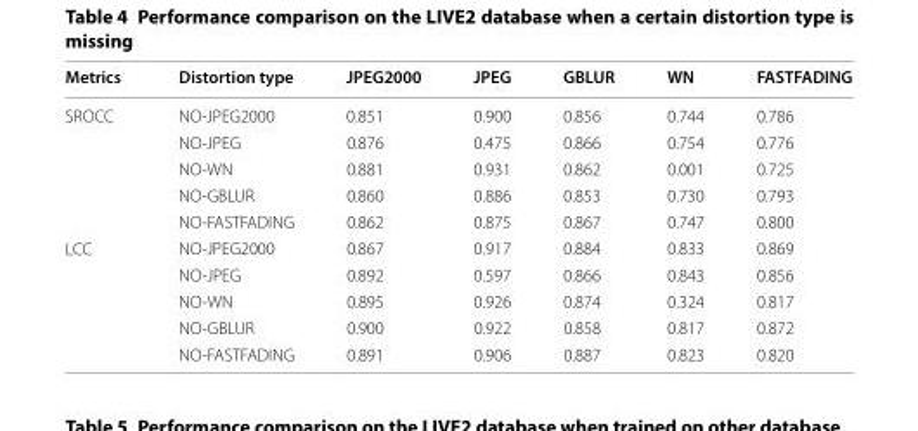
<table><thead><tr><td>Metrics</td><td>Distortion type</td><td>JPEG2000</td><td>JPEG</td><td>GBLUR</td><td>WN</td><td>FASTFADING</td></tr></thead><tbody><tr><td rowspan="5">SROCC</td><td>NO-JPEG2000</td><td>0.851</td><td>0.900</td><td>0.856</td><td>0.744</td><td>0.786</td></tr><tr><td>NO-JPEG</td><td>0.876</td><td>0.475</td><td>0.866</td><td>0.754</td><td>0.776</td></tr><tr><td>NO-WN</td><td>0.881</td><td>0.931</td><td>0.862</td><td>0.001</td><td>0.725</td></tr><tr><td>NO-GBLUR</td><td>0.860</td><td>0.886</td><td>0.853</td><td>0.730</td><td>0.793</td></tr><tr><td>NO-FASTFADING</td><td>0.862</td><td>0.875</td><td>0.867</td><td>0.747</td><td>0.800</td></tr><tr><td rowspan="5">LCC</td><td>NO-JPEG2000</td><td>0.867</td><td>0.917</td><td>0.884</td><td>0.833</td><td>0.869</td></tr><tr><td>NO-JPEG</td><td>0.892</td><td>0.597</td><td>0.866</td><td>0.843</td><td>0.856</td></tr><tr><td>NO-WN</td><td>0.895</td><td>0.926</td><td>0.874</td><td>0.324</td><td>0.817</td></tr><tr><td>NO-GBLUR</td><td>0.900</td><td>0.922</td><td>0.858</td><td>0.817</td><td>0.872</td></tr><tr><td>NO-FASTFADING</td><td>0.891</td><td>0.906</td><td>0.887</td><td>0.823</td><td>0.820</td></tr></tbody></table>